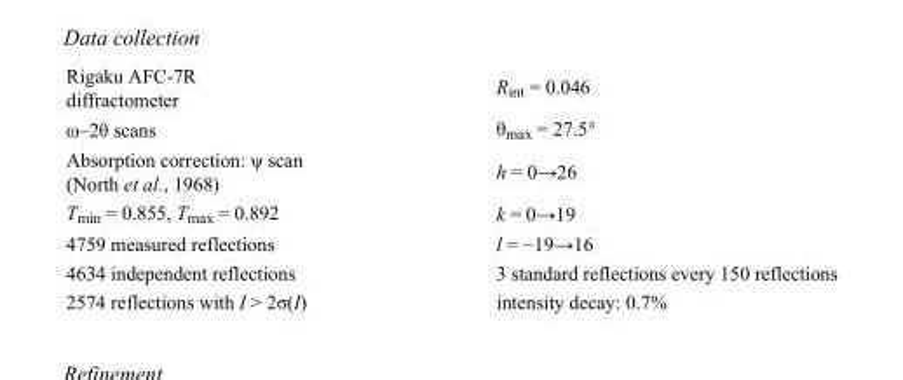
<table><tbody><tr><td>Rigaku AFC-7R diffractometer</td><td>R<sub>int</sub> = 0.046</td></tr><tr><td>ω–2θ scans</td><td>θ<sub>max</sub> = 27.5°</td></tr><tr><td>Absorption correction: ψ scan (North et al., 1968)</td><td>h = 0→26</td></tr><tr><td>T<sub>min</sub> = 0.855, T<sub>max</sub> = 0.892</td><td>k = 0→19</td></tr><tr><td>4759 measured reflections</td><td>l = −19→16</td></tr><tr><td>4634 independent reflections</td><td>3 standard reflections every 150 reflections</td></tr><tr><td>2574 reflections with I &gt; 2σ(I)</td><td>intensity decay: 0.7%</td></tr></tbody></table>